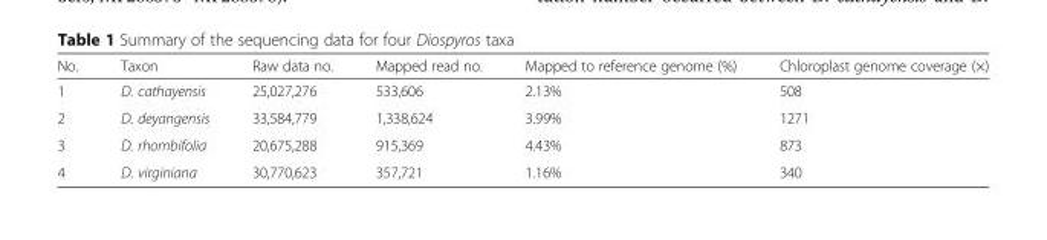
<table><thead><tr><td>No.</td><td>Taxon</td><td>Raw data no.</td><td>Mapped read no.</td><td>Mapped to reference genome (%)</td><td>Chloroplast genome coverage (×)</td></tr></thead><tbody><tr><td>1</td><td>D. cathayensis</td><td>25,027,276</td><td>533,606</td><td>2.13%</td><td>508</td></tr><tr><td>2</td><td>D. deyangensis</td><td>33,584,779</td><td>1,338,624</td><td>3.99%</td><td>1271</td></tr><tr><td>3</td><td>D. rhombifolia</td><td>20,675,288</td><td>915,369</td><td>4.43%</td><td>873</td></tr><tr><td>4</td><td>D. virginiana</td><td>30,770,623</td><td>357,721</td><td>1.16%</td><td>340</td></tr></tbody></table>